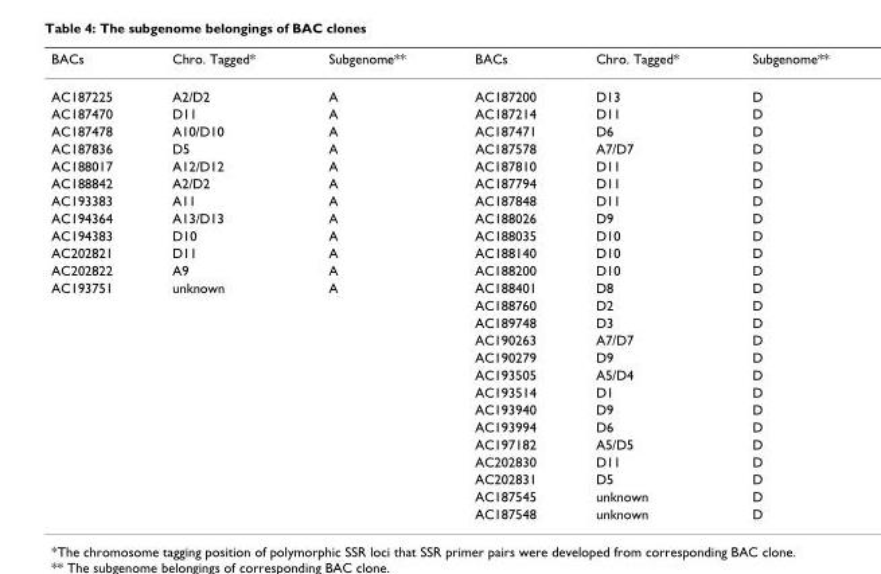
<table><thead><tr><td>BACs</td><td>Chro. Tagged*</td><td>Subgenome**</td><td>BACs</td><td>Chro. Tagged*</td><td>Subgenome**</td></tr></thead><tbody><tr><td>AC187225</td><td>A2/D2</td><td>A</td><td>AC187200</td><td>D13</td><td>D</td></tr><tr><td>AC187470</td><td>D11</td><td>A</td><td>AC187214</td><td>D11</td><td>D</td></tr><tr><td>AC187478</td><td>A10/D10</td><td>A</td><td>AC187471</td><td>D6</td><td>D</td></tr><tr><td>AC187836</td><td>D5</td><td>A</td><td>AC187578</td><td>A7/D7</td><td>D</td></tr><tr><td>AC188017</td><td>A12/D12</td><td>A</td><td>AC187810</td><td>D11</td><td>D</td></tr><tr><td>AC188842</td><td>A2/D2</td><td>A</td><td>AC187794</td><td>D11</td><td>D</td></tr><tr><td>AC193383</td><td>A11</td><td>A</td><td>AC187848</td><td>D11</td><td>D</td></tr><tr><td>AC194364</td><td>A13/D13</td><td>A</td><td>AC188026</td><td>D9</td><td>D</td></tr><tr><td>AC194383</td><td>D10</td><td>A</td><td>AC188035</td><td>D10</td><td>D</td></tr><tr><td>AC202821</td><td>D11</td><td>A</td><td>AC188140</td><td>D10</td><td>D</td></tr><tr><td>AC202822</td><td>A9</td><td>A</td><td>AC188200</td><td>D10</td><td>D</td></tr><tr><td rowspan="14">AC193751</td><td>unknown</td><td>A</td><td>AC188401</td><td>D8</td><td>D</td></tr><tr><td></td><td></td><td>AC188760</td><td>D2</td><td>D</td></tr><tr><td></td><td></td><td>AC189748</td><td>D3</td><td>D</td></tr><tr><td></td><td></td><td>AC190263</td><td>A7/D7</td><td>D</td></tr><tr><td></td><td></td><td>AC190279</td><td>D9</td><td>D</td></tr><tr><td></td><td></td><td>AC193505</td><td>A5/D4</td><td>D</td></tr><tr><td></td><td></td><td>AC193514</td><td>D1</td><td>D</td></tr><tr><td></td><td></td><td>AC193940</td><td>D9</td><td>D</td></tr><tr><td></td><td></td><td>AC193994</td><td>D6</td><td>D</td></tr><tr><td></td><td></td><td>AC197182</td><td>A5/D5</td><td>D</td></tr><tr><td></td><td></td><td>AC202830</td><td>D11</td><td>D</td></tr><tr><td></td><td></td><td>AC202831</td><td>D5</td><td>D</td></tr><tr><td></td><td></td><td>AC187545</td><td>unknown</td><td>D</td></tr><tr><td></td><td></td><td>AC187548</td><td>unknown</td><td>D</td></tr></tbody></table>